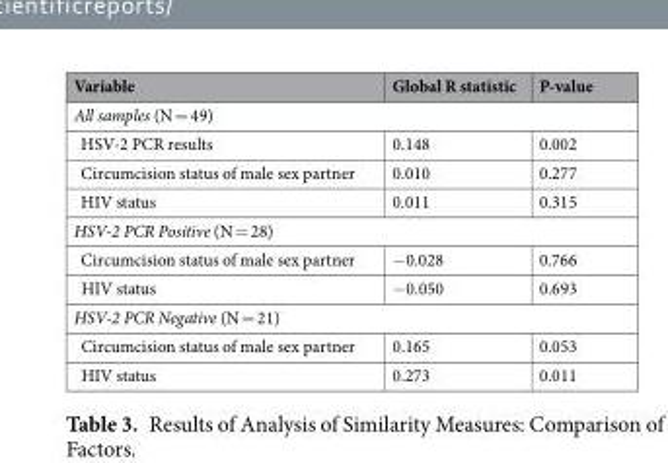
<table><thead><tr><td>Variable</td><td>Global R statistic</td><td>P-value</td></tr></thead><tbody><tr><td colspan="3">All samples (N = 49)</td></tr><tr><td>HSV-2 PCR results</td><td>0.148</td><td>0.002</td></tr><tr><td>Circumcision status of male sex partner</td><td>0.010</td><td>0.277</td></tr><tr><td>HIV status</td><td>0.011</td><td>0.315</td></tr><tr><td colspan="3">HSV-2 PCR Positive (N = 28)</td></tr><tr><td>Circumcision status of male sex partner</td><td>−0.028</td><td>0.766</td></tr><tr><td>HIV status</td><td>−0.050</td><td>0.693</td></tr><tr><td colspan="3">HSV-2 PCR Negative (N = 21)</td></tr><tr><td>Circumcision status of male sex partner</td><td>0.165</td><td>0.053</td></tr><tr><td>HIV status</td><td>0.273</td><td>0.011</td></tr></tbody></table>